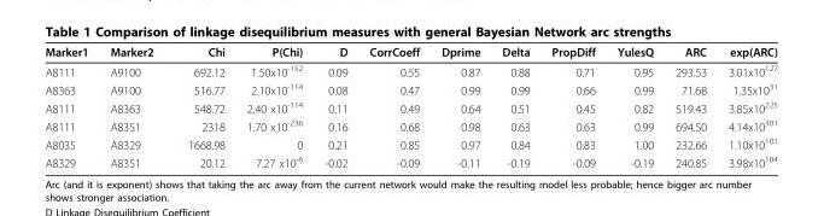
<table><thead><tr><td>Marker1</td><td>Marker2</td><td>Chi</td><td>P(Chi)</td><td>D</td><td>CorrCoeff</td><td>Dprime</td><td>Delta</td><td>PropDiff</td><td>YulesQ</td><td>ARC</td><td>exp(ARC)</td></tr></thead><tbody><tr><td>A8111</td><td>A9100</td><td>692.12</td><td>1.50x10<sup>-152</sup></td><td>0.09</td><td>0.55</td><td>0.87</td><td>0.88</td><td>0.71</td><td>0.95</td><td>293.53</td><td>3.01x10<sup>127</sup></td></tr><tr><td>A8363</td><td>A9100</td><td>516.77</td><td>2.10x10<sup>-114</sup></td><td>0.08</td><td>0.47</td><td>0.99</td><td>0.99</td><td>0.66</td><td>0.99</td><td>71.68</td><td>1.35x10<sup>31</sup></td></tr><tr><td>A8111</td><td>A8363</td><td>548.72</td><td>2.40 x10<sup>-114</sup></td><td>0.11</td><td>0.49</td><td>0.64</td><td>0.51</td><td>0.45</td><td>0.82</td><td>519.43</td><td>3.85x10<sup>225</sup></td></tr><tr><td>A8111</td><td>A8351</td><td>2318</td><td>1.70 x10<sup>-236</sup></td><td>0.16</td><td>0.68</td><td>0.98</td><td>0.63</td><td>0.63</td><td>0.99</td><td>694.50</td><td>4.14x10<sup>301</sup></td></tr><tr><td>A8035</td><td>A8329</td><td>1668.98</td><td>0</td><td>0.21</td><td>0.85</td><td>0.97</td><td>0.84</td><td>0.83</td><td>1.00</td><td>232.66</td><td>1.10x10<sup>101</sup></td></tr><tr><td>A8329</td><td>A8351</td><td>20.12</td><td>7.27 x10<sup>-6</sup></td><td>-0.02</td><td>-0.09</td><td>-0.11</td><td>-0.19</td><td>-0.09</td><td>-0.19</td><td>240.85</td><td>3.98x10<sup>104</sup></td></tr></tbody></table>